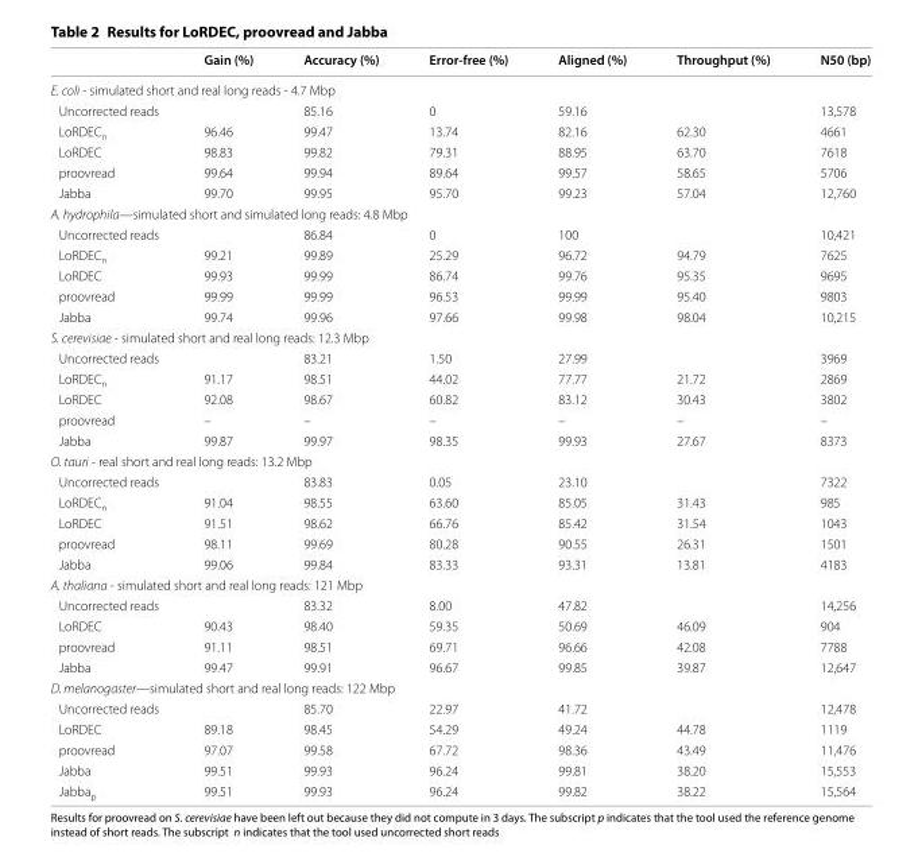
<table><thead><tr><td></td><td>Gain (%)</td><td>Accuracy (%)</td><td>Error-free (%)</td><td>Aligned (%)</td><td>Throughput (%)</td><td>N50 (bp)</td></tr></thead><tbody><tr><td colspan="7">E. coli - simulated short and real long reads - 4.7 Mbp</td></tr><tr><td>Uncorrected reads</td><td></td><td>85.16</td><td>0</td><td>59.16</td><td></td><td>13,578</td></tr><tr><td>LoRDEC<sub>n</sub></td><td>96.46</td><td>99.47</td><td>13.74</td><td>82.16</td><td>62.30</td><td>4661</td></tr><tr><td>LoRDEC</td><td>98.83</td><td>99.82</td><td>79.31</td><td>88.95</td><td>63.70</td><td>7618</td></tr><tr><td>proovread</td><td>99.64</td><td>99.94</td><td>89.64</td><td>99.57</td><td>58.65</td><td>5706</td></tr><tr><td>Jabba</td><td>99.70</td><td>99.95</td><td>95.70</td><td>99.23</td><td>57.04</td><td>12,760</td></tr><tr><td colspan="7">A. hydrophila—simulated short and simulated long reads: 4.8 Mbp</td></tr><tr><td>Uncorrected reads</td><td></td><td>86.84</td><td>0</td><td>100</td><td></td><td>10,421</td></tr><tr><td>LoRDEC<sub>n</sub></td><td>99.21</td><td>99.89</td><td>25.29</td><td>96.72</td><td>94.79</td><td>7625</td></tr><tr><td>LoRDEC</td><td>99.93</td><td>99.99</td><td>86.74</td><td>99.76</td><td>95.35</td><td>9695</td></tr><tr><td>proovread</td><td>99.99</td><td>99.99</td><td>96.53</td><td>99.99</td><td>95.40</td><td>9803</td></tr><tr><td>Jabba</td><td>99.74</td><td>99.96</td><td>97.66</td><td>99.98</td><td>98.04</td><td>10,215</td></tr><tr><td colspan="7">S. cerevisiae - simulated short and real long reads: 12.3 Mbp</td></tr><tr><td>Uncorrected reads</td><td></td><td>83.21</td><td>1.50</td><td>27.99</td><td></td><td>3969</td></tr><tr><td>LoRDEC<sub>n</sub></td><td>91.17</td><td>98.51</td><td>44.02</td><td>77.77</td><td>21.72</td><td>2869</td></tr><tr><td>LoRDEC</td><td>92.08</td><td>98.67</td><td>60.82</td><td>83.12</td><td>30.43</td><td>3802</td></tr><tr><td>proovread</td><td>–</td><td>–</td><td>–</td><td>–</td><td>–</td><td>–</td></tr><tr><td>Jabba</td><td>99.87</td><td>99.97</td><td>98.35</td><td>99.93</td><td>27.67</td><td>8373</td></tr><tr><td colspan="7">O. tauri - real short and real long reads: 13.2 Mbp</td></tr><tr><td>Uncorrected reads</td><td></td><td>83.83</td><td>0.05</td><td>23.10</td><td></td><td>7322</td></tr><tr><td>LoRDEC<sub>n</sub></td><td>91.04</td><td>98.55</td><td>63.60</td><td>85.05</td><td>31.43</td><td>985</td></tr><tr><td>LoRDEC</td><td>91.51</td><td>98.62</td><td>66.76</td><td>85.42</td><td>31.54</td><td>1043</td></tr><tr><td>proovread</td><td>98.11</td><td>99.69</td><td>80.28</td><td>90.55</td><td>26.31</td><td>1501</td></tr><tr><td>Jabba</td><td>99.06</td><td>99.84</td><td>83.33</td><td>93.31</td><td>13.81</td><td>4183</td></tr><tr><td colspan="7">A. thaliana - simulated short and real long reads: 121 Mbp</td></tr><tr><td>Uncorrected reads</td><td></td><td>83.32</td><td>8.00</td><td>47.82</td><td></td><td>14,256</td></tr><tr><td>LoRDEC</td><td>90.43</td><td>98.40</td><td>59.35</td><td>50.69</td><td>46.09</td><td>904</td></tr><tr><td>proovread</td><td>91.11</td><td>98.51</td><td>69.71</td><td>96.66</td><td>42.08</td><td>7788</td></tr><tr><td>Jabba</td><td>99.47</td><td>99.91</td><td>96.67</td><td>99.85</td><td>39.87</td><td>12,647</td></tr><tr><td colspan="7">D. melanogaster—simulated short and real long reads: 122 Mbp</td></tr><tr><td>Uncorrected reads</td><td></td><td>85.70</td><td>22.97</td><td>41.72</td><td></td><td>12,478</td></tr><tr><td>LoRDEC</td><td>89.18</td><td>98.45</td><td>54.29</td><td>49.24</td><td>44.78</td><td>1119</td></tr><tr><td>proovread</td><td>97.07</td><td>99.58</td><td>67.72</td><td>98.36</td><td>43.49</td><td>11,476</td></tr><tr><td>Jabba</td><td>99.51</td><td>99.93</td><td>96.24</td><td>99.81</td><td>38.20</td><td>15,553</td></tr><tr><td>Jabba<sub>p</sub></td><td>99.51</td><td>99.93</td><td>96.24</td><td>99.82</td><td>38.22</td><td>15,564</td></tr></tbody></table>